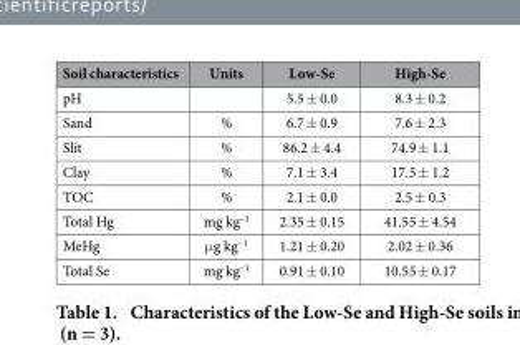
<table><thead><tr><td>Soil characteristics</td><td>Units</td><td>Low-Se</td><td>High-Se</td></tr></thead><tbody><tr><td>pH</td><td></td><td>5.5 ± 0.0</td><td>8.3 ± 0.2</td></tr><tr><td>Sand</td><td>%</td><td>6.7 ± 0.9</td><td>7.6 ± 2.3</td></tr><tr><td>Slit</td><td>%</td><td>86.2 ± 4.4</td><td>74.9 ± 1.1</td></tr><tr><td>Clay</td><td>%</td><td>7.1 ± 3.4</td><td>17.5 ± 1.2</td></tr><tr><td>TOC</td><td>%</td><td>2.1 ± 0.0</td><td>2.5 ± 0.3</td></tr><tr><td>Total Hg</td><td>mg kg<sup>–1</sup></td><td>2.35 ± 0.15</td><td>41.55 ± 4.54</td></tr><tr><td>MeHg</td><td>μ g kg<sup>–1</sup></td><td>1.21 ± 0.20</td><td>2.02 ± 0.36</td></tr><tr><td>Total Se</td><td>mg kg<sup>–1</sup></td><td>0.91 ± 0.10</td><td>10.55 ± 0.17</td></tr></tbody></table>